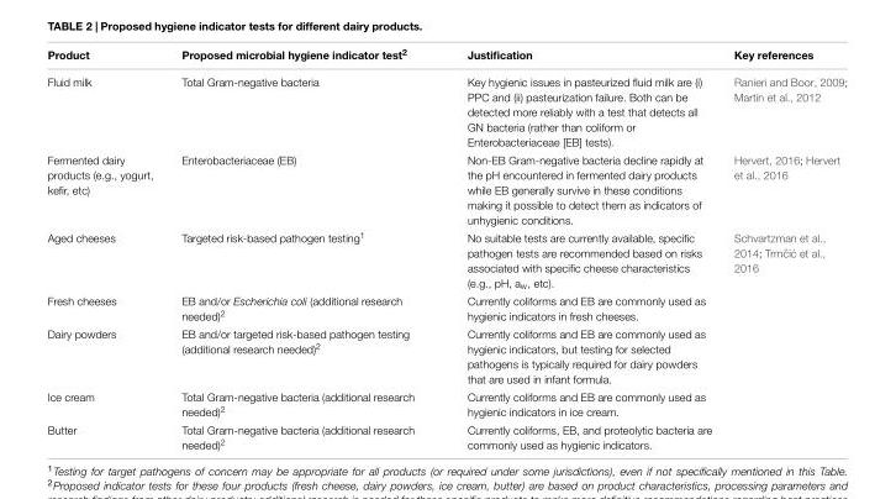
<table><thead><tr><td>Product</td><td>Proposed microbial hygiene indicator test<sup>2</sup></td><td>Justification</td><td>Key references</td></tr></thead><tbody><tr><td>Fluid milk</td><td>Total Gram-negative bacteria</td><td>Key hygienic issues in pasteurized fluid milk are (i) PPC and (ii) pasteurization failure. Both can be detected more reliably with a test that detects all GN bacteria (rather than coliform or Enterobacteriaceae [EB] tests).</td><td>Ranieri and Boor, 2009; Martin et al., 2012</td></tr><tr><td>Fermented dairy products (e.g., yogurt, kefir, etc)</td><td>Enterobacteriaceae (EB)</td><td>Non-EB Gram-negative bacteria decline rapidly at the pH encountered in fermented dairy products while EB generally survive in these conditions making it possible to detect them as indicators of unhygienic conditions.</td><td>Hervert, 2016; Hervert et al., 2016</td></tr><tr><td>Aged cheeses</td><td>Targeted risk-based pathogen testing<sup>1</sup></td><td>No suitable tests are currently available, specific pathogen tests are recommended based on risks associated with specific cheese characteristics (e.g., pH, a<sub>w</sub>, etc).</td><td>Schvartzman et al., 2014; Trm ˇci ´c et al., 2016</td></tr><tr><td>Fresh cheeses</td><td>EB and/or Escherichia coli (additional research needed)<sup>2</sup></td><td>Currently coliforms and EB are commonly used as hygienic indicators in fresh cheeses.</td><td></td></tr><tr><td>Dairy powders</td><td>EB and/or targeted risk-based pathogen testing (additional research needed)<sup>2</sup></td><td>Currently coliforms and EB are commonly used as hygienic indicators, but testing for selected pathogens is typically required for dairy powders that are used in infant formula.</td><td></td></tr><tr><td>Ice cream</td><td>Total Gram-negative bacteria (additional research needed)<sup>2</sup></td><td>Currently coliforms and EB are commonly used as hygienic indicators in ice cream.</td><td></td></tr><tr><td>Butter</td><td>Total Gram-negative bacteria (additional research needed)<sup>2</sup></td><td>Currently coliforms, EB, and proteolytic bacteria are commonly used as hygienic indicators.</td><td></td></tr></tbody></table>